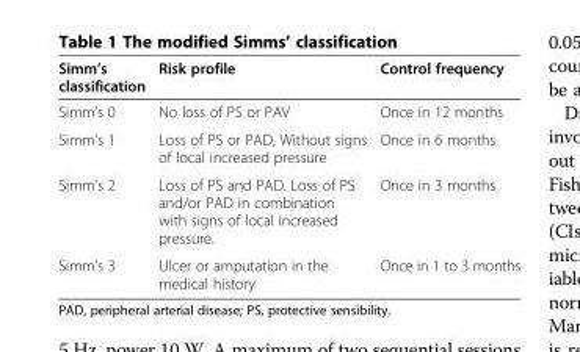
<table><thead><tr><td>Simm’s classification</td><td>Risk profile</td><td>Control frequency</td></tr></thead><tbody><tr><td>Simm’s 0</td><td>No loss of PS or PAV</td><td>Once in 12 months</td></tr><tr><td>Simm’s 1</td><td>Loss of PS or PAD, Without signs of local increased pressure</td><td>Once in 6 months</td></tr><tr><td>Simm’s 2</td><td>Loss of PS and PAD. Loss of PS and/or PAD in combination with signs of local increased pressure.</td><td>Once in 3 months</td></tr><tr><td>Simm’s 3</td><td>Ulcer or amputation in the medical history</td><td>Once in 1 to 3 months</td></tr></tbody></table>